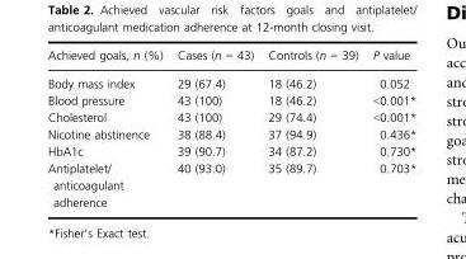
<table><thead><tr><td>Achieved goals, n (%)</td><td>Cases (n = 43)</td><td>Controls (n = 39)</td><td>P value</td></tr></thead><tbody><tr><td>Body mass index</td><td>29 (67.4)</td><td>18 (46.2)</td><td>0.052</td></tr><tr><td>Blood pressure</td><td>43 (100)</td><td>18 (46.2)</td><td>&lt;0.001*</td></tr><tr><td>Cholesterol</td><td>43 (100)</td><td>29 (74.4)</td><td>&lt;0.001*</td></tr><tr><td>Nicotine abstinence</td><td>38 (88.4)</td><td>37 (94.9)</td><td>0.436*</td></tr><tr><td>HbA1c</td><td>39 (90.7)</td><td>34 (87.2)</td><td>0.730*</td></tr><tr><td>Antiplatelet/ anticoagulant adherence</td><td>40 (93.0)</td><td>35 (89.7)</td><td>0.703*</td></tr></tbody></table>